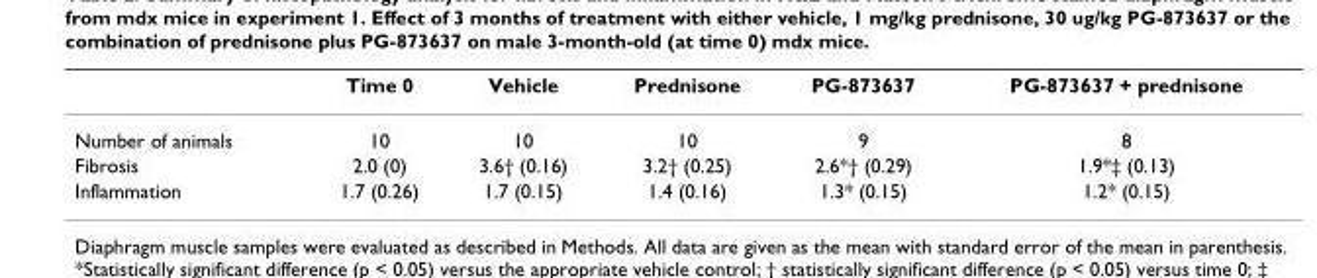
<table><thead><tr><td></td><td>Time 0</td><td>Vehicle</td><td>Prednisone</td><td>PG-873637</td><td>PG-873637 + prednisone</td></tr></thead><tbody><tr><td>Number of animals</td><td>10</td><td>10</td><td>10</td><td>9</td><td>8</td></tr><tr><td>Fibrosis</td><td>2.0 (0)</td><td>3.6† (0.16)</td><td>3.2† (0.25)</td><td>2.6*† (0.29)</td><td>1.9*‡ (0.13)</td></tr><tr><td>Inflammation</td><td>1.7 (0.26)</td><td>1.7 (0.15)</td><td>1.4 (0.16)</td><td>1.3* (0.15)</td><td>1.2* (0.15)</td></tr></tbody></table>